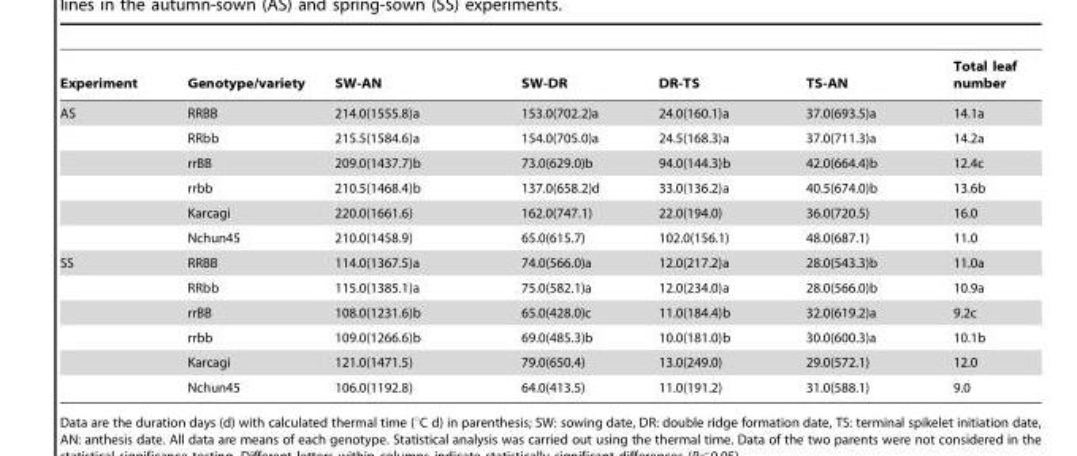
<table><thead><tr><td>Experiment</td><td>Genotype/variety</td><td>SW-AN</td><td>SW-DR</td><td>DR-TS</td><td>TS-AN</td><td>Total leaf number</td></tr></thead><tbody><tr><td rowspan="6">AS</td><td>RRBB</td><td>214.0(1555.8)a</td><td>153.0(702.2)a</td><td>24.0(160.1)a</td><td>37.0(693.5)a</td><td>14.1a</td></tr><tr><td>RRbb</td><td>215.5(1584.6)a</td><td>154.0(705.0)a</td><td>24.5(168.3)a</td><td>37.0(711.3)a</td><td>14.2a</td></tr><tr><td>rrBB</td><td>209.0(1437.7)b</td><td>73.0(629.0)b</td><td>94.0(144.3)b</td><td>42.0(664.4)b</td><td>12.4c</td></tr><tr><td>rrbb</td><td>210.5(1468.4)b</td><td>137.0(658.2)d</td><td>33.0(136.2)a</td><td>40.5(674.0)b</td><td>13.6b</td></tr><tr><td>Karcagi</td><td>220.0(1661.6)</td><td>162.0(747.1)</td><td>22.0(194.0)</td><td>36.0(720.5)</td><td>16.0</td></tr><tr><td>Nchun45</td><td>210.0(1458.9)</td><td>65.0(615.7)</td><td>102.0(156.1)</td><td>48.0(687.1)</td><td>11.0</td></tr><tr><td rowspan="6">SS</td><td>RRBB</td><td>114.0(1367.5)a</td><td>74.0(566.0)a</td><td>12.0(217.2)a</td><td>28.0(543.3)b</td><td>11.0a</td></tr><tr><td>RRbb</td><td>115.0(1385.1)a</td><td>75.0(582.1)a</td><td>12.0(234.0)a</td><td>28.0(566.0)b</td><td>10.9a</td></tr><tr><td>rrBB</td><td>108.0(1231.6)b</td><td>65.0(428.0)c</td><td>11.0(184.4)b</td><td>32.0(619.2)a</td><td>9.2c</td></tr><tr><td>rrbb</td><td>109.0(1266.6)b</td><td>69.0(485.3)b</td><td>10.0(181.0)b</td><td>30.0(600.3)a</td><td>10.1b</td></tr><tr><td>Karcagi</td><td>121.0(1471.5)</td><td>79.0(650.4)</td><td>13.0(249.0)</td><td>29.0(572.1)</td><td>12.0</td></tr><tr><td>Nchun45</td><td>106.0(1192.8)</td><td>64.0(413.5)</td><td>11.0(191.2)</td><td>31.0(588.1)</td><td>9.0</td></tr></tbody></table>